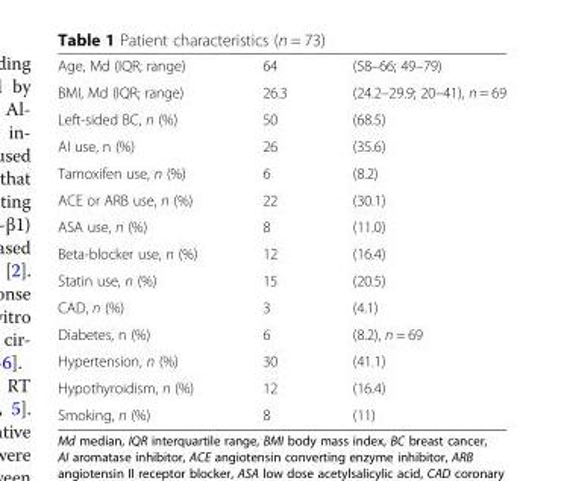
<table><tbody><tr><td>Age, Md (IQR; range)</td><td>64</td><td>(58–66; 49–79)</td></tr><tr><td>BMI, Md (IQR; range)</td><td>26.3</td><td>(24.2–29.9; 20–41), n = 69</td></tr><tr><td>Left-sided BC, n (%)</td><td>50</td><td>(68.5)</td></tr><tr><td>AI use, n (%)</td><td>26</td><td>(35.6)</td></tr><tr><td>Tamoxifen use, n (%)</td><td>6</td><td>(8.2)</td></tr><tr><td>ACE or ARB use, n (%)</td><td>22</td><td>(30.1)</td></tr><tr><td>ASA use, n (%)</td><td>8</td><td>(11.0)</td></tr><tr><td>Beta-blocker use, n (%)</td><td>12</td><td>(16.4)</td></tr><tr><td>Statin use, n (%)</td><td>15</td><td>(20.5)</td></tr><tr><td>CAD, n (%)</td><td>3</td><td>(4.1)</td></tr><tr><td>Diabetes, n (%)</td><td>6</td><td>(8.2), n = 69</td></tr><tr><td>Hypertension, n (%)</td><td>30</td><td>(41.1)</td></tr><tr><td>Hypothyroidism, n (%)</td><td>12</td><td>(16.4)</td></tr><tr><td>Smoking, n (%)</td><td>8</td><td>(11)</td></tr></tbody></table>